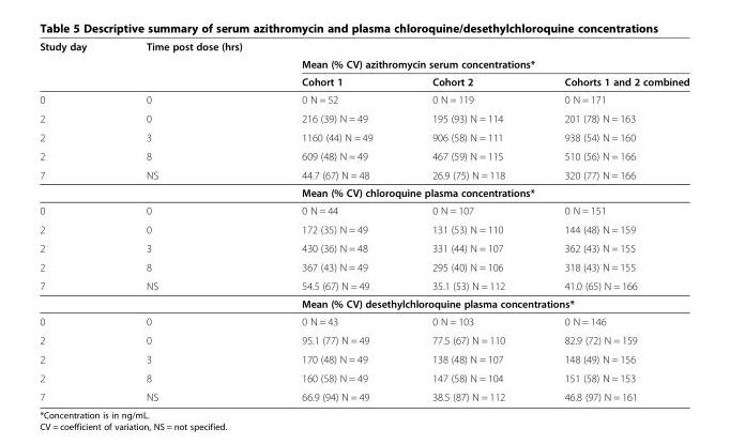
<table><thead><tr><td rowspan="3">Study day</td><td rowspan="3">Time post dose (hrs)</td><td></td><td></td><td></td></tr><tr><td colspan="3">Mean (% CV) azithromycin serum concentrations*</td></tr><tr><td>Cohort 1</td><td>Cohort 2</td><td>Cohorts 1 and 2 combined</td></tr></thead><tbody><tr><td>0</td><td>0</td><td>0 N = 52</td><td>0 N = 119</td><td>0 N = 171</td></tr><tr><td>2</td><td>0</td><td>216 (39) N = 49</td><td>195 (93) N = 114</td><td>201 (78) N = 163</td></tr><tr><td>2</td><td>3</td><td>1160 (44) N = 49</td><td>906 (58) N = 111</td><td>938 (54) N = 160</td></tr><tr><td>2</td><td>8</td><td>609 (48) N = 49</td><td>467 (59) N = 115</td><td>510 (56) N = 166</td></tr><tr><td rowspan="2">7</td><td>NS</td><td>44.7 (67) N = 48</td><td>26.9 (75) N = 118</td><td>320 (77) N = 166</td></tr><tr><td></td><td colspan="3">Mean (% CV) chloroquine plasma concentrations*</td></tr><tr><td>0</td><td>0</td><td>0 N = 44</td><td>0 N = 107</td><td>0 N = 151</td></tr><tr><td>2</td><td>0</td><td>172 (35) N = 49</td><td>131 (53) N = 110</td><td>144 (48) N = 159</td></tr><tr><td>2</td><td>3</td><td>430 (36) N = 48</td><td>331 (44) N = 107</td><td>362 (43) N = 155</td></tr><tr><td>2</td><td>8</td><td>367 (43) N = 49</td><td>295 (40) N = 106</td><td>318 (43) N = 155</td></tr><tr><td rowspan="2">7</td><td>NS</td><td>54.5 (67) N = 49</td><td>35.1 (53) N = 112</td><td>41.0 (65) N = 166</td></tr><tr><td></td><td colspan="3">Mean (% CV) desethylchloroquine plasma concentrations*</td></tr><tr><td>0</td><td>0</td><td>0 N = 43</td><td>0 N = 103</td><td>0 N = 146</td></tr><tr><td>2</td><td>0</td><td>95.1 (77) N = 49</td><td>77.5 (67) N = 110</td><td>82.9 (72) N = 159</td></tr><tr><td>2</td><td>3</td><td>170 (48) N = 49</td><td>138 (48) N = 107</td><td>148 (49) N = 156</td></tr><tr><td>2</td><td>8</td><td>160 (58) N = 49</td><td>147 (58) N = 104</td><td>151 (58) N = 153</td></tr><tr><td>7</td><td>NS</td><td>66.9 (94) N = 49</td><td>38.5 (87) N = 112</td><td>46.8 (97) N = 161</td></tr></tbody></table>